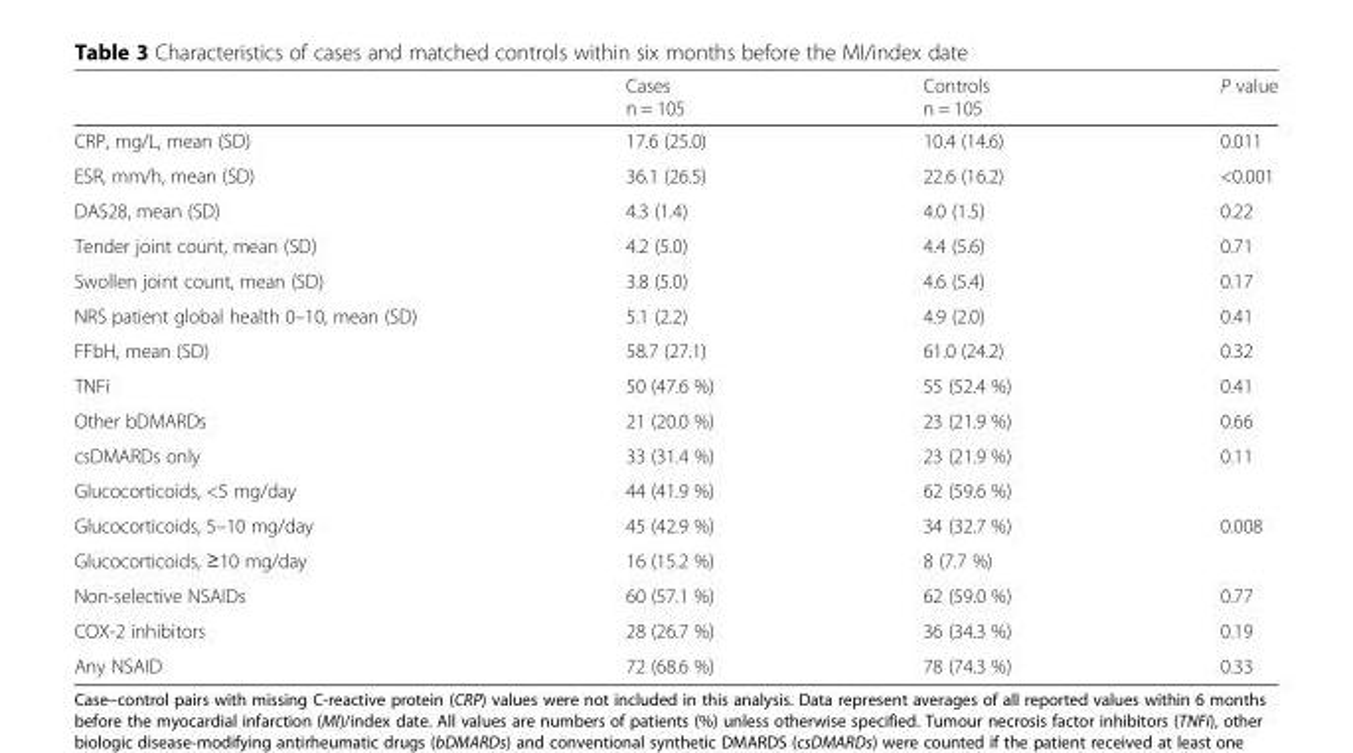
<table><thead><tr><td></td><td>Cases n = 105</td><td>Controls n = 105</td><td>P value</td></tr></thead><tbody><tr><td>CRP, mg/L, mean (SD)</td><td>17.6 (25.0)</td><td>10.4 (14.6)</td><td>0.011</td></tr><tr><td>ESR, mm/h, mean (SD)</td><td>36.1 (26.5)</td><td>22.6 (16.2)</td><td>&lt;0.001</td></tr><tr><td>DAS28, mean (SD)</td><td>4.3 (1.4)</td><td>4.0 (1.5)</td><td>0.22</td></tr><tr><td>Tender joint count, mean (SD)</td><td>4.2 (5.0)</td><td>4.4 (5.6)</td><td>0.71</td></tr><tr><td>Swollen joint count, mean (SD)</td><td>3.8 (5.0)</td><td>4.6 (5.4)</td><td>0.17</td></tr><tr><td>NRS patient global health 0–10, mean (SD)</td><td>5.1 (2.2)</td><td>4.9 (2.0)</td><td>0.41</td></tr><tr><td>FFbH, mean (SD)</td><td>58.7 (27.1)</td><td>61.0 (24.2)</td><td>0.32</td></tr><tr><td>TNFi</td><td>50 (47.6 %)</td><td>55 (52.4 %)</td><td>0.41</td></tr><tr><td>Other bDMARDs</td><td>21 (20.0 %)</td><td>23 (21.9 %)</td><td>0.66</td></tr><tr><td>csDMARDs only</td><td>33 (31.4 %)</td><td>23 (21.9 %)</td><td>0.11</td></tr><tr><td>Glucocorticoids, &lt;5 mg/day</td><td>44 (41.9 %)</td><td>62 (59.6 %)</td><td></td></tr><tr><td>Glucocorticoids, 5–10 mg/day</td><td>45 (42.9 %)</td><td>34 (32.7 %)</td><td>0.008</td></tr><tr><td>Glucocorticoids, ≥10 mg/day</td><td>16 (15.2 %)</td><td>8 (7.7 %)</td><td></td></tr><tr><td>Non-selective NSAIDs</td><td>60 (57.1 %)</td><td>62 (59.0 %)</td><td>0.77</td></tr><tr><td>COX-2 inhibitors</td><td>28 (26.7 %)</td><td>36 (34.3 %)</td><td>0.19</td></tr><tr><td>Any NSAID</td><td>72 (68.6 %)</td><td>78 (74.3 %)</td><td>0.33</td></tr></tbody></table>